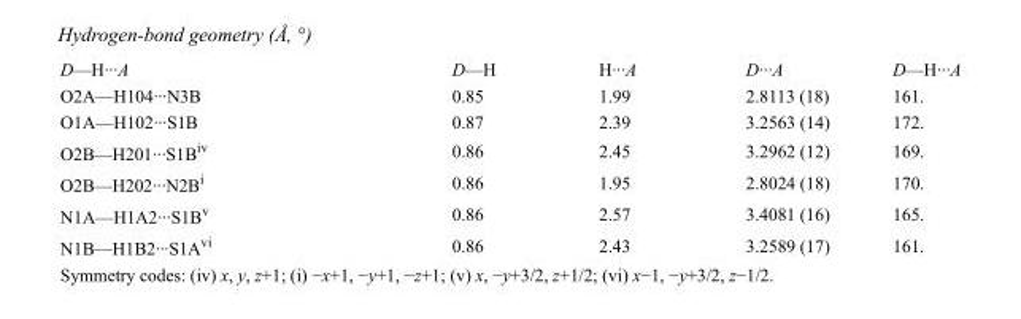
<table><tbody><tr><td>D—H···A</td><td>D—H</td><td>H···A</td><td>D···A</td><td>D—H···A</td></tr><tr><td>O2A—H104···N3B</td><td>0.85</td><td>1.99</td><td>2.8113 (18)</td><td>161.</td></tr><tr><td>O1A—H102···S1B</td><td>0.87</td><td>2.39</td><td>3.2563 (14)</td><td>172.</td></tr><tr><td>O2B—H201···S1B<sup>iv</sup></td><td>0.86</td><td>2.45</td><td>3.2962 (12)</td><td>169.</td></tr><tr><td>O2B—H202···N2B<sup>i</sup></td><td>0.86</td><td>1.95</td><td>2.8024 (18)</td><td>170.</td></tr><tr><td>N1A—H1A2···S1B<sup>v</sup></td><td>0.86</td><td>2.57</td><td>3.4081 (16)</td><td>165.</td></tr><tr><td>N1B—H1B2···S1A<sup>vi</sup></td><td>0.86</td><td>2.43</td><td>3.2589 (17)</td><td>161.</td></tr></tbody></table>